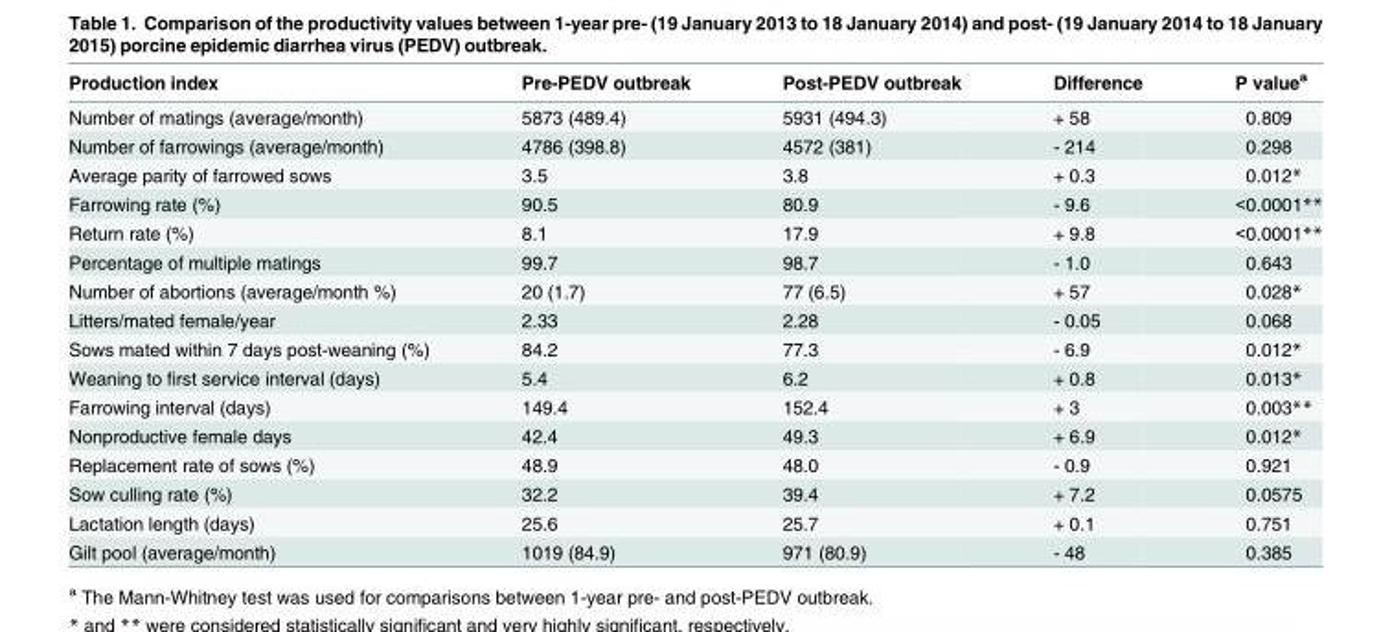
<table><thead><tr><td>Production index</td><td>Pre-PEDV outbreak</td><td>Post-PEDV outbreak</td><td>Difference</td><td>P value<sup>a</sup></td></tr></thead><tbody><tr><td>Number of matings (average/month)</td><td>5873 (489.4)</td><td>5931 (494.3)</td><td>+ 58</td><td>0.809</td></tr><tr><td>Number of farrowings (average/month)</td><td>4786 (398.8)</td><td>4572 (381)</td><td>- 214</td><td>0.298</td></tr><tr><td>Average parity of farrowed sows</td><td>3.5</td><td>3.8</td><td>+ 0.3</td><td>0.012*</td></tr><tr><td>Farrowing rate (%)</td><td>90.5</td><td>80.9</td><td>- 9.6</td><td>&lt;0.0001**</td></tr><tr><td>Return rate (%)</td><td>8.1</td><td>17.9</td><td>+ 9.8</td><td>&lt;0.0001**</td></tr><tr><td>Percentage of multiple matings</td><td>99.7</td><td>98.7</td><td>- 1.0</td><td>0.643</td></tr><tr><td>Number of abortions (average/month %)</td><td>20 (1.7)</td><td>77 (6.5)</td><td>+ 57</td><td>0.028*</td></tr><tr><td>Litters/mated female/year</td><td>2.33</td><td>2.28</td><td>- 0.05</td><td>0.068</td></tr><tr><td>Sows mated within 7 days post-weaning (%)</td><td>84.2</td><td>77.3</td><td>- 6.9</td><td>0.012*</td></tr><tr><td>Weaning to first service interval (days)</td><td>5.4</td><td>6.2</td><td>+ 0.8</td><td>0.013*</td></tr><tr><td>Farrowing interval (days)</td><td>149.4</td><td>152.4</td><td>+ 3</td><td>0.003**</td></tr><tr><td>Nonproductive female days</td><td>42.4</td><td>49.3</td><td>+ 6.9</td><td>0.012*</td></tr><tr><td>Replacement rate of sows (%)</td><td>48.9</td><td>48.0</td><td>- 0.9</td><td>0.921</td></tr><tr><td>Sow culling rate (%)</td><td>32.2</td><td>39.4</td><td>+ 7.2</td><td>0.0575</td></tr><tr><td>Lactation length (days)</td><td>25.6</td><td>25.7</td><td>+ 0.1</td><td>0.751</td></tr><tr><td>Gilt pool (average/month)</td><td>1019 (84.9)</td><td>971 (80.9)</td><td>- 48</td><td>0.385</td></tr></tbody></table>